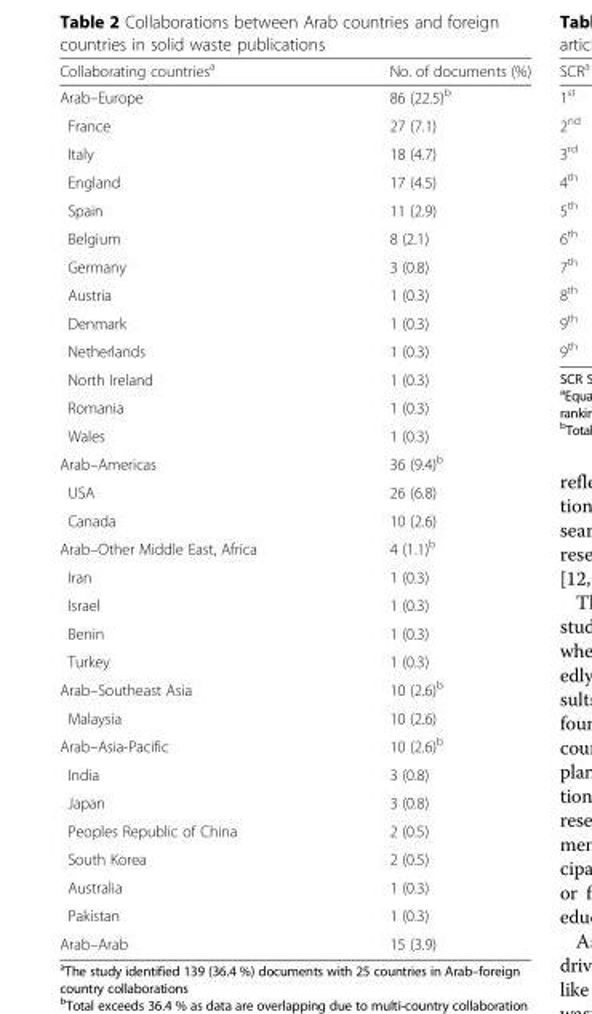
<table><thead><tr><td>Collaborating countries<sup>a</sup></td><td>No. of documents (%)</td></tr></thead><tbody><tr><td>Arab–Europe</td><td>86 (22.5)<sup>b</sup></td></tr><tr><td>France</td><td>27 (7.1)</td></tr><tr><td>Italy</td><td>18 (4.7)</td></tr><tr><td>England</td><td>17 (4.5)</td></tr><tr><td>Spain</td><td>11 (2.9)</td></tr><tr><td>Belgium</td><td>8 (2.1)</td></tr><tr><td>Germany</td><td>3 (0.8)</td></tr><tr><td>Austria</td><td>1 (0.3)</td></tr><tr><td>Denmark</td><td>1 (0.3)</td></tr><tr><td>Netherlands</td><td>1 (0.3)</td></tr><tr><td>North Ireland</td><td>1 (0.3)</td></tr><tr><td>Romania</td><td>1 (0.3)</td></tr><tr><td>Wales</td><td>1 (0.3)</td></tr><tr><td>Arab–Americas</td><td>36 (9.4)<sup>b</sup></td></tr><tr><td>USA</td><td>26 (6.8)</td></tr><tr><td>Canada</td><td>10 (2.6)</td></tr><tr><td>Arab–Other Middle East, Africa</td><td>4 (1.1)<sup>b</sup></td></tr><tr><td>Iran</td><td>1 (0.3)</td></tr><tr><td>Israel</td><td>1 (0.3)</td></tr><tr><td>Benin</td><td>1 (0.3)</td></tr><tr><td>Turkey</td><td>1 (0.3)</td></tr><tr><td>Arab–Southeast Asia</td><td>10 (2.6)<sup>b</sup></td></tr><tr><td>Malaysia</td><td>10 (2.6)</td></tr><tr><td>Arab–Asia-Pacific</td><td>10 (2.6)<sup>b</sup></td></tr><tr><td>India</td><td>3 (0.8)</td></tr><tr><td>Japan</td><td>3 (0.8)</td></tr><tr><td>Peoples Republic of China</td><td>2 (0.5)</td></tr><tr><td>South Korea</td><td>2 (0.5)</td></tr><tr><td>Australia</td><td>1 (0.3)</td></tr><tr><td>Pakistan</td><td>1 (0.3)</td></tr><tr><td>Arab–Arab</td><td>15 (3.9)</td></tr></tbody></table>